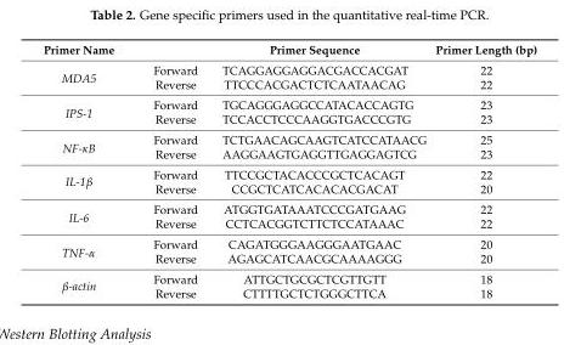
<table><thead><tr><td>Primer Name</td><td></td><td>Primer Sequence</td><td>Primer Length (bp)</td></tr></thead><tbody><tr><td rowspan="2">MDA5</td><td>Forward</td><td>TCAGGAGGAGGACGACCACGAT</td><td>22</td></tr><tr><td>Reverse</td><td>TTCCCACGACTCTCAATAACAG</td><td>22</td></tr><tr><td rowspan="2">IPS-1</td><td>Forward</td><td>TGCAGGGAGGCCATACACCAGTG</td><td>23</td></tr><tr><td>Reverse</td><td>TCCACCTCCCAAGGTGACCCGTG</td><td>23</td></tr><tr><td rowspan="2">NF-κB</td><td>Forward</td><td>TCTGAACAGCAAGTCATCCATAACG</td><td>25</td></tr><tr><td>Reverse</td><td>AAGGAAGTGAGGTTGAGGAGTCG</td><td>23</td></tr><tr><td rowspan="2">IL-1β</td><td>Forward</td><td>TTCCGCTACACCCGCTCACAGT</td><td>22</td></tr><tr><td>Reverse</td><td>CCGCTCATCACACACGACAT</td><td>20</td></tr><tr><td rowspan="2">IL-6</td><td>Forward</td><td>ATGGTGATAAATCCCGATGAAG</td><td>22</td></tr><tr><td>Reverse</td><td>CCTCACGGTCTTCTCCATAAAC</td><td>22</td></tr><tr><td rowspan="2">TNF-α</td><td>Forward</td><td>CAGATGGGAAGGGAATGAAC</td><td>20</td></tr><tr><td>Reverse</td><td>AGAGCATCAACGCAAAAGGG</td><td>20</td></tr><tr><td rowspan="2">β-actin</td><td>Forward</td><td>ATTGCTGCGCTCGTTGTT</td><td>18</td></tr><tr><td>Reverse</td><td>CTTTTGCTCTGGGCTTCA</td><td>18</td></tr></tbody></table>